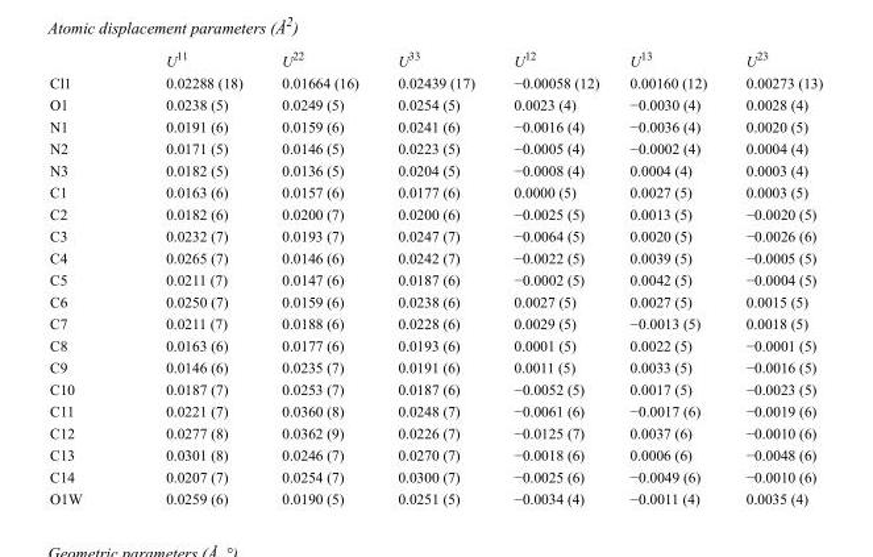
<table><thead><tr><td></td><td>U<sup>11</sup></td><td>U<sup>22</sup></td><td>U<sup>33</sup></td><td>U<sup>12</sup></td><td>U<sup>13</sup></td><td>U<sup>23</sup></td></tr></thead><tbody><tr><td>Cl1</td><td>0.02288 (18)</td><td>0.01664 (16)</td><td>0.02439 (17)</td><td>−0.00058 (12)</td><td>0.00160 (12)</td><td>0.00273 (13)</td></tr><tr><td>O1</td><td>0.0238 (5)</td><td>0.0249 (5)</td><td>0.0254 (5)</td><td>0.0023 (4)</td><td>−0.0030 (4)</td><td>0.0028 (4)</td></tr><tr><td>N1</td><td>0.0191 (6)</td><td>0.0159 (6)</td><td>0.0241 (6)</td><td>−0.0016 (4)</td><td>−0.0036 (4)</td><td>0.0020 (5)</td></tr><tr><td>N2</td><td>0.0171 (5)</td><td>0.0146 (5)</td><td>0.0223 (5)</td><td>−0.0005 (4)</td><td>−0.0002 (4)</td><td>0.0004 (4)</td></tr><tr><td>N3</td><td>0.0182 (5)</td><td>0.0136 (5)</td><td>0.0204 (5)</td><td>−0.0008 (4)</td><td>0.0004 (4)</td><td>0.0003 (4)</td></tr><tr><td>C1</td><td>0.0163 (6)</td><td>0.0157 (6)</td><td>0.0177 (6)</td><td>0.0000 (5)</td><td>0.0027 (5)</td><td>0.0003 (5)</td></tr><tr><td>C2</td><td>0.0182 (6)</td><td>0.0200 (7)</td><td>0.0200 (6)</td><td>−0.0025 (5)</td><td>0.0013 (5)</td><td>−0.0020 (5)</td></tr><tr><td>C3</td><td>0.0232 (7)</td><td>0.0193 (7)</td><td>0.0247 (7)</td><td>−0.0064 (5)</td><td>0.0020 (5)</td><td>−0.0026 (6)</td></tr><tr><td>C4</td><td>0.0265 (7)</td><td>0.0146 (6)</td><td>0.0242 (7)</td><td>−0.0022 (5)</td><td>0.0039 (5)</td><td>−0.0005 (5)</td></tr><tr><td>C5</td><td>0.0211 (7)</td><td>0.0147 (6)</td><td>0.0187 (6)</td><td>−0.0002 (5)</td><td>0.0042 (5)</td><td>−0.0004 (5)</td></tr><tr><td>C6</td><td>0.0250 (7)</td><td>0.0159 (6)</td><td>0.0238 (6)</td><td>0.0027 (5)</td><td>0.0027 (5)</td><td>0.0015 (5)</td></tr><tr><td>C7</td><td>0.0211 (7)</td><td>0.0188 (6)</td><td>0.0228 (6)</td><td>0.0029 (5)</td><td>−0.0013 (5)</td><td>0.0018 (5)</td></tr><tr><td>C8</td><td>0.0163 (6)</td><td>0.0177 (6)</td><td>0.0193 (6)</td><td>0.0001 (5)</td><td>0.0022 (5)</td><td>−0.0001 (5)</td></tr><tr><td>C9</td><td>0.0146 (6)</td><td>0.0235 (7)</td><td>0.0191 (6)</td><td>0.0011 (5)</td><td>0.0033 (5)</td><td>−0.0016 (5)</td></tr><tr><td>C10</td><td>0.0187 (7)</td><td>0.0253 (7)</td><td>0.0187 (6)</td><td>−0.0052 (5)</td><td>0.0017 (5)</td><td>−0.0023 (5)</td></tr><tr><td>C11</td><td>0.0221 (7)</td><td>0.0360 (8)</td><td>0.0248 (7)</td><td>−0.0061 (6)</td><td>−0.0017 (6)</td><td>−0.0019 (6)</td></tr><tr><td>C12</td><td>0.0277 (8)</td><td>0.0362 (9)</td><td>0.0226 (7)</td><td>−0.0125 (7)</td><td>0.0037 (6)</td><td>−0.0010 (6)</td></tr><tr><td>C13</td><td>0.0301 (8)</td><td>0.0246 (7)</td><td>0.0270 (7)</td><td>−0.0018 (6)</td><td>0.0006 (6)</td><td>−0.0048 (6)</td></tr><tr><td>C14</td><td>0.0207 (7)</td><td>0.0254 (7)</td><td>0.0300 (7)</td><td>−0.0025 (6)</td><td>−0.0049 (6)</td><td>−0.0010 (6)</td></tr><tr><td>O1W</td><td>0.0259 (6)</td><td>0.0190 (5)</td><td>0.0251 (5)</td><td>−0.0034 (4)</td><td>−0.0011 (4)</td><td>0.0035 (4)</td></tr></tbody></table>